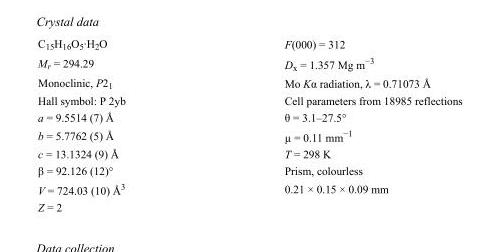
<table><tbody><tr><td>C<sub>15</sub>H<sub>16</sub>O<sub>5</sub>·H<sub>2</sub>O</td><td>F(000) = 312</td></tr><tr><td>M<sub>r</sub> = 294.29</td><td>D<sub>x</sub> = 1.357 Mg m<sup>−3</sup></td></tr><tr><td>Monoclinic, P2<sub>1</sub></td><td>Mo Kα radiation, λ = 0.71073 Å</td></tr><tr><td>Hall symbol: P 2yb</td><td>Cell parameters from 18985 reflections</td></tr><tr><td>a = 9.5514 (7) Å</td><td>θ = 3.1–27.5°</td></tr><tr><td>b = 5.7762 (5) Å</td><td>µ = 0.11 mm<sup>−1</sup></td></tr><tr><td>c = 13.1324 (9) Å</td><td>T = 298 K</td></tr><tr><td>β = 92.126 (12)°</td><td>Prism, colourless</td></tr><tr><td>V = 724.03 (10) Å<sup>3</sup></td><td>0.21 × 0.15 × 0.09 mm</td></tr><tr><td>Z = 2</td><td></td></tr></tbody></table>